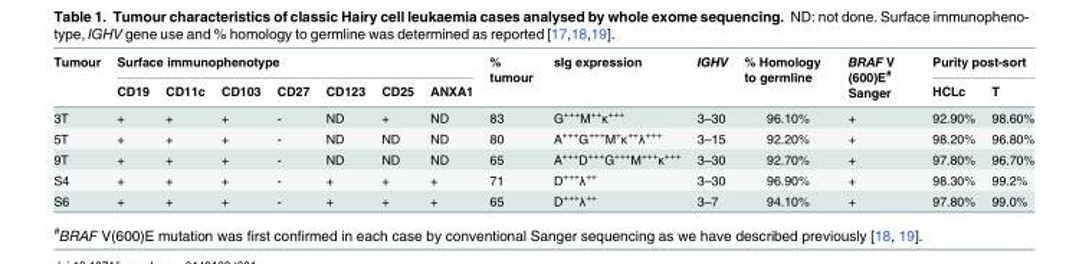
<table><thead><tr><td rowspan="2">Tumour</td><td colspan="7">Surface immunophenotype</td><td rowspan="2">% tumour</td><td rowspan="2">sIg expression</td><td rowspan="2">IGHV</td><td rowspan="2">% Homology to germline</td><td rowspan="2">BRAF V (600)E<sup>#</sup> Sanger</td><td colspan="2">Purity post-sort</td></tr><tr><td>CD19</td><td>CD11c</td><td>CD103</td><td>CD27</td><td>CD123</td><td>CD25</td><td>ANXA1</td><td>HCLc</td><td>T</td></tr></thead><tbody><tr><td>3T</td><td>+</td><td>+</td><td>+</td><td>-</td><td>ND</td><td>+</td><td>ND</td><td>83</td><td>G<sup>+++</sup>M<sup>++</sup>κ<sup>+++</sup></td><td>3–30</td><td>96.10%</td><td>+</td><td>92.90%</td><td>98.60%</td></tr><tr><td>5T</td><td>+</td><td>+</td><td>+</td><td>-</td><td>ND</td><td>ND</td><td>ND</td><td>80</td><td>A<sup>+++</sup>G<sup>+++</sup>M<sup>+</sup>κ<sup>++</sup>λ<sup>+++</sup></td><td>3–15</td><td>92.20%</td><td>+</td><td>98.20%</td><td>96.80%</td></tr><tr><td>9T</td><td>+</td><td>+</td><td>+</td><td>-</td><td>ND</td><td>ND</td><td>ND</td><td>65</td><td>A<sup>+++</sup>D<sup>+++</sup>G<sup>+++</sup>M<sup>+++</sup>κ<sup>+++</sup></td><td>3–30</td><td>92.70%</td><td>+</td><td>97.80%</td><td>96.70%</td></tr><tr><td>S4</td><td>+</td><td>+</td><td>+</td><td>-</td><td>+</td><td>+</td><td>+</td><td>71</td><td>D<sup>+++</sup>λ<sup>++</sup></td><td>3–30</td><td>96.90%</td><td>+</td><td>98.30%</td><td>99.2%</td></tr><tr><td>S6</td><td>+</td><td>+</td><td>+</td><td>-</td><td>+</td><td>+</td><td>+</td><td>65</td><td>D<sup>+++</sup>λ<sup>++</sup></td><td>3–7</td><td>94.10%</td><td>+</td><td>97.80%</td><td>99.0%</td></tr></tbody></table>